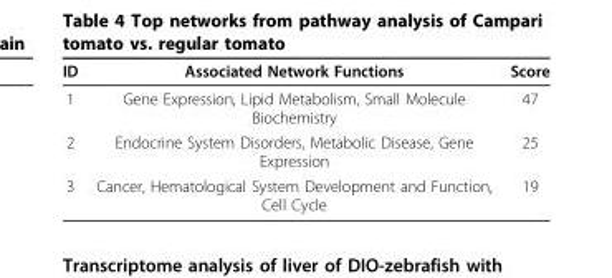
<table><thead><tr><td>ID</td><td>Associated Network Functions</td><td>Score</td></tr></thead><tbody><tr><td>1</td><td>Gene Expression, Lipid Metabolism, Small Molecule Biochemistry</td><td>47</td></tr><tr><td>2</td><td>Endocrine System Disorders, Metabolic Disease, Gene Expression</td><td>25</td></tr><tr><td>3</td><td>Cancer, Hematological System Development and Function, Cell Cycle</td><td>19</td></tr></tbody></table>